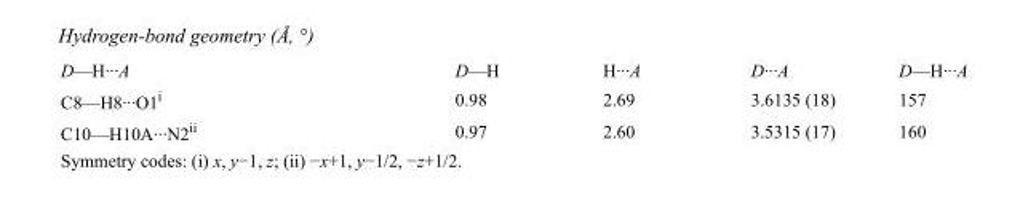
<table><tbody><tr><td>D—H···A</td><td>D—H</td><td>H···A</td><td>D···A</td><td>D—H···A</td></tr><tr><td>C8—H8···O1<sup>i</sup></td><td>0.98</td><td>2.69</td><td>3.6135 (18)</td><td>157</td></tr><tr><td>C10—H10A···N2<sup>ii</sup></td><td>0.97</td><td>2.60</td><td>3.5315 (17)</td><td>160</td></tr></tbody></table>